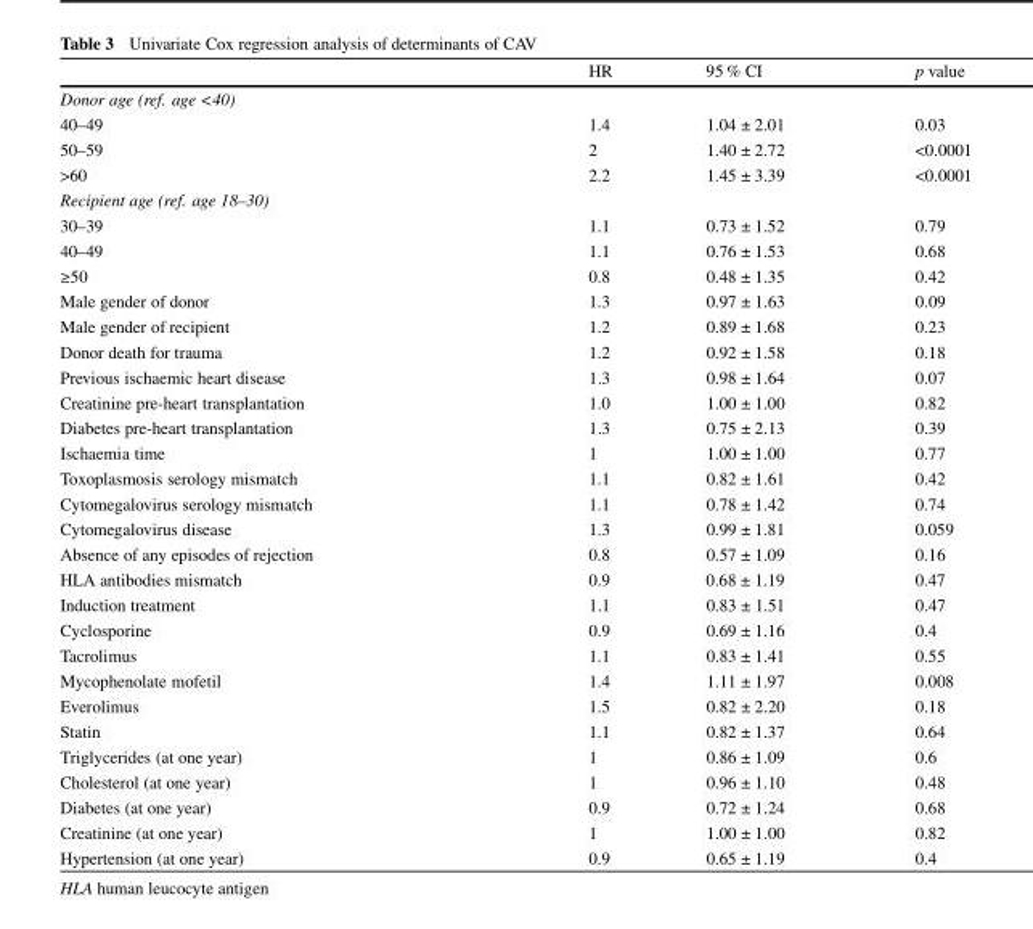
<table><thead><tr><td></td><td>HR</td><td>95 % CI</td><td>p value</td></tr></thead><tbody><tr><td colspan="4">Donor age (ref. age &lt;40)</td></tr><tr><td>40–49</td><td>1.4</td><td>1.04 ± 2.01</td><td>0.03</td></tr><tr><td>50–59</td><td>2</td><td>1.40 ± 2.72</td><td>&lt;0.0001</td></tr><tr><td>&gt;60</td><td>2.2</td><td>1.45 ± 3.39</td><td>&lt;0.0001</td></tr><tr><td colspan="4">Recipient age (ref. age 18–30)</td></tr><tr><td>30–39</td><td>1.1</td><td>0.73 ± 1.52</td><td>0.79</td></tr><tr><td>40–49</td><td>1.1</td><td>0.76 ± 1.53</td><td>0.68</td></tr><tr><td>≥50</td><td>0.8</td><td>0.48 ± 1.35</td><td>0.42</td></tr><tr><td>Male gender of donor</td><td>1.3</td><td>0.97 ± 1.63</td><td>0.09</td></tr><tr><td>Male gender of recipient</td><td>1.2</td><td>0.89 ± 1.68</td><td>0.23</td></tr><tr><td>Donor death for trauma</td><td>1.2</td><td>0.92 ± 1.58</td><td>0.18</td></tr><tr><td>Previous ischaemic heart disease</td><td>1.3</td><td>0.98 ± 1.64</td><td>0.07</td></tr><tr><td>Creatinine pre-heart transplantation</td><td>1.0</td><td>1.00 ± 1.00</td><td>0.82</td></tr><tr><td>Diabetes pre-heart transplantation</td><td>1.3</td><td>0.75 ± 2.13</td><td>0.39</td></tr><tr><td>Ischaemia time</td><td>1</td><td>1.00 ± 1.00</td><td>0.77</td></tr><tr><td>Toxoplasmosis serology mismatch</td><td>1.1</td><td>0.82 ± 1.61</td><td>0.42</td></tr><tr><td>Cytomegalovirus serology mismatch</td><td>1.1</td><td>0.78 ± 1.42</td><td>0.74</td></tr><tr><td>Cytomegalovirus disease</td><td>1.3</td><td>0.99 ± 1.81</td><td>0.059</td></tr><tr><td>Absence of any episodes of rejection</td><td>0.8</td><td>0.57 ± 1.09</td><td>0.16</td></tr><tr><td>HLA antibodies mismatch</td><td>0.9</td><td>0.68 ± 1.19</td><td>0.47</td></tr><tr><td>Induction treatment</td><td>1.1</td><td>0.83 ± 1.51</td><td>0.47</td></tr><tr><td>Cyclosporine</td><td>0.9</td><td>0.69 ± 1.16</td><td>0.4</td></tr><tr><td>Tacrolimus</td><td>1.1</td><td>0.83 ± 1.41</td><td>0.55</td></tr><tr><td>Mycophenolate mofetil</td><td>1.4</td><td>1.11 ± 1.97</td><td>0.008</td></tr><tr><td>Everolimus</td><td>1.5</td><td>0.82 ± 2.20</td><td>0.18</td></tr><tr><td>Statin</td><td>1.1</td><td>0.82 ± 1.37</td><td>0.64</td></tr><tr><td>Triglycerides (at one year)</td><td>1</td><td>0.86 ± 1.09</td><td>0.6</td></tr><tr><td>Cholesterol (at one year)</td><td>1</td><td>0.96 ± 1.10</td><td>0.48</td></tr><tr><td>Diabetes (at one year)</td><td>0.9</td><td>0.72 ± 1.24</td><td>0.68</td></tr><tr><td>Creatinine (at one year)</td><td>1</td><td>1.00 ± 1.00</td><td>0.82</td></tr><tr><td>Hypertension (at one year)</td><td>0.9</td><td>0.65 ± 1.19</td><td>0.4</td></tr></tbody></table>